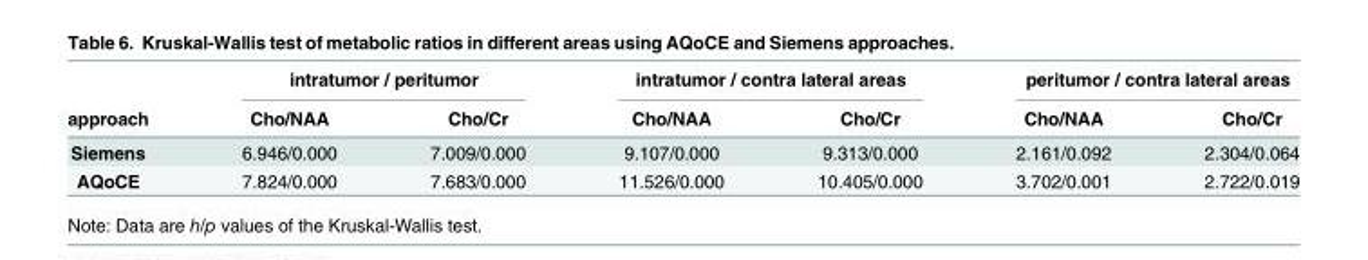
<table><thead><tr><td rowspan="2">approach</td><td colspan="2">intratumor / peritumor</td><td colspan="2">intratumor / contra lateral areas</td><td colspan="2">peritumor / contra lateral areas</td></tr><tr><td>Cho/NAA</td><td>Cho/Cr</td><td>Cho/NAA</td><td>Cho/Cr</td><td>Cho/NAA</td><td>Cho/Cr</td></tr></thead><tbody><tr><td>Siemens</td><td>6.946/0.000</td><td>7.009/0.000</td><td>9.107/0.000</td><td>9.313/0.000</td><td>2.161/0.092</td><td>2.304/0.064</td></tr><tr><td>AQoCE</td><td>7.824/0.000</td><td>7.683/0.000</td><td>11.526/0.000</td><td>10.405/0.000</td><td>3.702/0.001</td><td>2.722/0.019</td></tr></tbody></table>